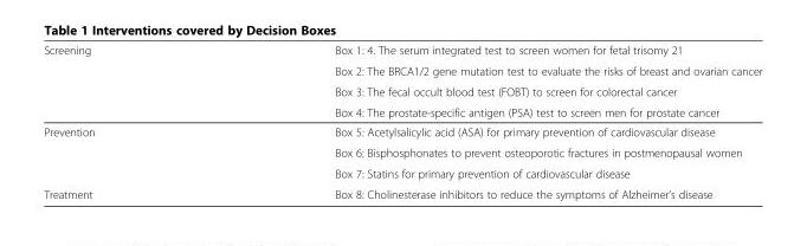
<table><tbody><tr><td rowspan="4">Screening</td><td>Box 1: 4. The serum integrated test to screen women for fetal trisomy 21</td></tr><tr><td>Box 2: The BRCA1/2 gene mutation test to evaluate the risks of breast and ovarian cancer</td></tr><tr><td>Box 3: The fecal occult blood test (FOBT) to screen for colorectal cancer</td></tr><tr><td>Box 4: The prostate-specific antigen (PSA) test to screen men for prostate cancer</td></tr><tr><td rowspan="3">Prevention</td><td>Box 5: Acetylsalicylic acid (ASA) for primary prevention of cardiovascular disease</td></tr><tr><td>Box 6: Bisphosphonates to prevent osteoporotic fractures in postmenopausal women</td></tr><tr><td>Box 7: Statins for primary prevention of cardiovascular disease</td></tr><tr><td>Treatment</td><td>Box 8: Cholinesterase inhibitors to reduce the symptoms of Alzheimer’s disease</td></tr></tbody></table>